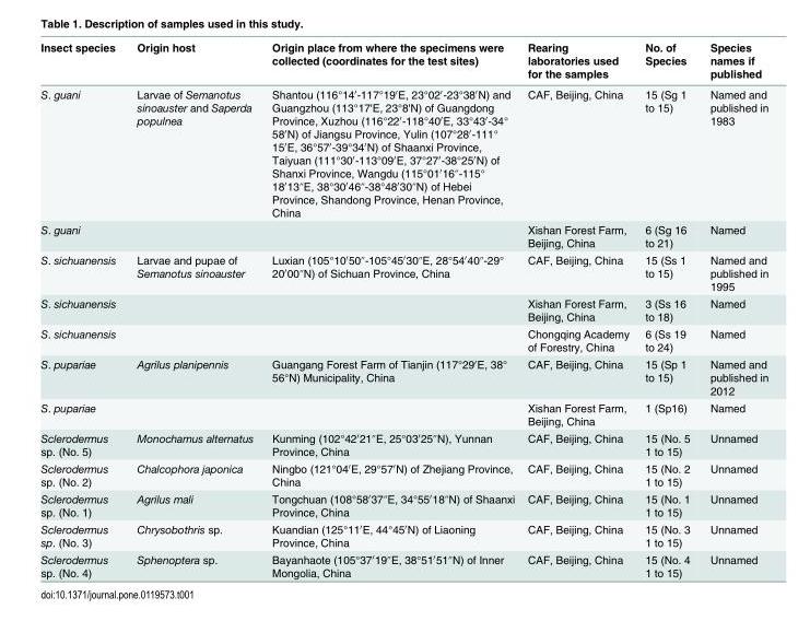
<table><thead><tr><td>Insect species</td><td>Origin host</td><td>Origin place from where the specimens were collected (coordinates for the test sites)</td><td>Rearing laboratories used for the samples</td><td>No. of Species</td><td>Species names if published</td></tr></thead><tbody><tr><td>S. guani</td><td>Larvae of Semanotus sinoauster and Saperda populnea</td><td>Shantou (116°14′-117°19′E, 23°02′-23°38′N) and Guangzhou (113°17&#x27;E, 23°8&#x27;N) of Guangdong Province, Xuzhou (116°22′-118°40′E, 33°43′-34° 58′N) of Jiangsu Province, Yulin (107°28′-111° 15′E, 36°57′-39°34′N) of Shaanxi Province, Taiyuan (111°30′-113°09′E, 37°27′-38°25′N) of Shanxi Province, Wangdu (115°01′16″-115° 18′13″E, 38°30′46″-38°48′30″N) of Hebei Province, Shandong Province, Henan Province, China</td><td>CAF, Beijing, China</td><td>15 (Sg 1 to 15)</td><td>Named and published in 1983</td></tr><tr><td>S. guani</td><td></td><td></td><td>Xishan Forest Farm, Beijing, China</td><td>6 (Sg 16 to 21)</td><td>Named</td></tr><tr><td>S. sichuanensis</td><td>Larvae and pupae of Semanotus sinoauster</td><td>Luxian (105°10′50″-105°45′30″E, 28°54′40″-29° 20′00″N) of Sichuan Province, China</td><td>CAF, Beijing, China</td><td>15 (Ss 1 to 15)</td><td>Named and published in 1995</td></tr><tr><td>S. sichuanensis</td><td></td><td></td><td>Xishan Forest Farm, Beijing, China</td><td>3 (Ss 16 to 18)</td><td>Named</td></tr><tr><td>S. sichuanensis</td><td></td><td></td><td>Chongqing Academy of Forestry, China</td><td>6 (Ss 19 to 24)</td><td>Named</td></tr><tr><td>S. pupariae</td><td>Agrilus planipennis</td><td>Guangang Forest Farm of Tianjin (117°29′E, 38° 56°N) Municipality, China</td><td>CAF, Beijing, China</td><td>15 (Sp 1 to 15)</td><td>Named and published in 2012</td></tr><tr><td>S. pupariae</td><td></td><td></td><td>Xishan Forest Farm, Beijing, China</td><td>1 (Sp16)</td><td>Named</td></tr><tr><td>Sclerodermus sp. (No. 5)</td><td>Monochamus alternatus</td><td>Kunming (102°42′21″E, 25°03′25″N), Yunnan Province, China</td><td>CAF, Beijing, China</td><td>15 (No. 5 1 to 15)</td><td>Unnamed</td></tr><tr><td>Sclerodermus sp. (No. 2)</td><td>Chalcophora japonica</td><td>Ningbo (121°04′E, 29°57′N) of Zhejiang Province, China</td><td>CAF, Beijing, China</td><td>15 (No. 2 1 to 15)</td><td>Unnamed</td></tr><tr><td>Sclerodermus sp. (No. 1)</td><td>Agrilus mali</td><td>Tongchuan (108°58′37″E, 34°55′18″N) of Shaanxi Province, China</td><td>CAF, Beijing, China</td><td>15 (No. 1 1 to 15)</td><td>Unnamed</td></tr><tr><td>Sclerodermus sp. (No. 3)</td><td>Chrysobothris sp.</td><td>Kuandian (125°11′E, 44°45′N) of Liaoning Province, China</td><td>CAF, Beijing, China</td><td>15 (No. 3 1 to 15)</td><td>Unnamed</td></tr><tr><td>Sclerodermus sp. (No. 4)</td><td>Sphenoptera sp.</td><td>Bayanhaote (105°37′19″E, 38°51′51″N) of Inner Mongolia, China</td><td>CAF, Beijing, China</td><td>15 (No. 4 1 to 15)</td><td>Unnamed</td></tr></tbody></table>